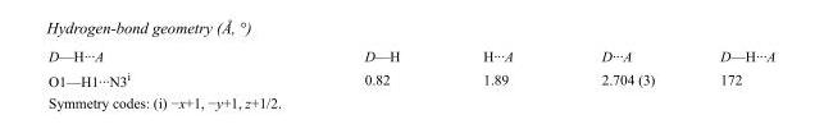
<table><tbody><tr><td>D—H···A</td><td>D—H</td><td>H···A</td><td>D···A</td><td>D—H···A</td></tr><tr><td>O1—H1···N3<sup>i</sup></td><td>0.82</td><td>1.89</td><td>2.704 (3)</td><td>172</td></tr></tbody></table>